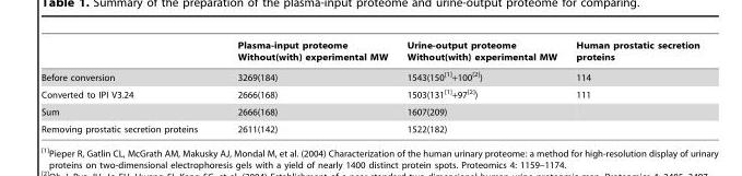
<table><thead><tr><td></td><td>Plasma-input proteome Without(with) experimental MW</td><td>Urine-output proteome Without(with) experimental MW</td><td>Human prostatic secretion proteins</td></tr></thead><tbody><tr><td>Before conversion</td><td>3269(184)</td><td>1543(150[1]+100[2])</td><td>114</td></tr><tr><td>Converted to IPI V3.24</td><td>2666(168)</td><td>1503(131[1]+97[2])</td><td>111</td></tr><tr><td>Sum</td><td>2666(168)</td><td>1607(209)</td><td></td></tr><tr><td>Removing prostatic secretion proteins</td><td>2611(142)</td><td>1522(182)</td><td></td></tr></tbody></table>